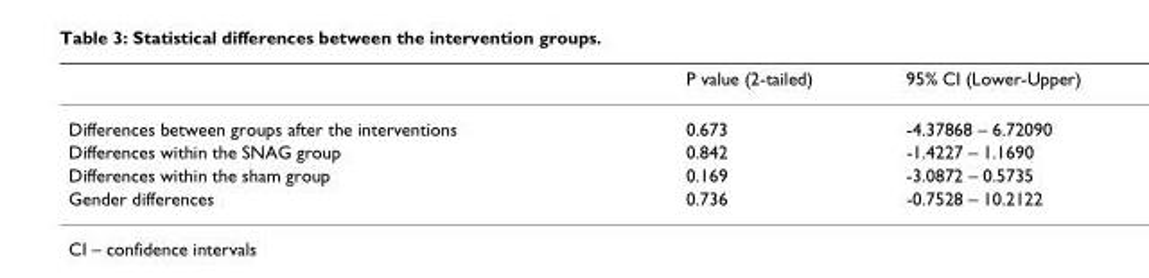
<table><thead><tr><td></td><td>P value (2-tailed)</td><td>95% CI (Lower-Upper)</td></tr></thead><tbody><tr><td>Differences between groups after the interventions</td><td>0.673</td><td>-4.37868 – 6.72090</td></tr><tr><td>Differences within the SNAG group</td><td>0.842</td><td>-1.4227 – 1.1690</td></tr><tr><td>Differences within the sham group</td><td>0.169</td><td>-3.0872 – 0.5735</td></tr><tr><td>Gender differences</td><td>0.736</td><td>-0.7528 – 10.2122</td></tr></tbody></table>